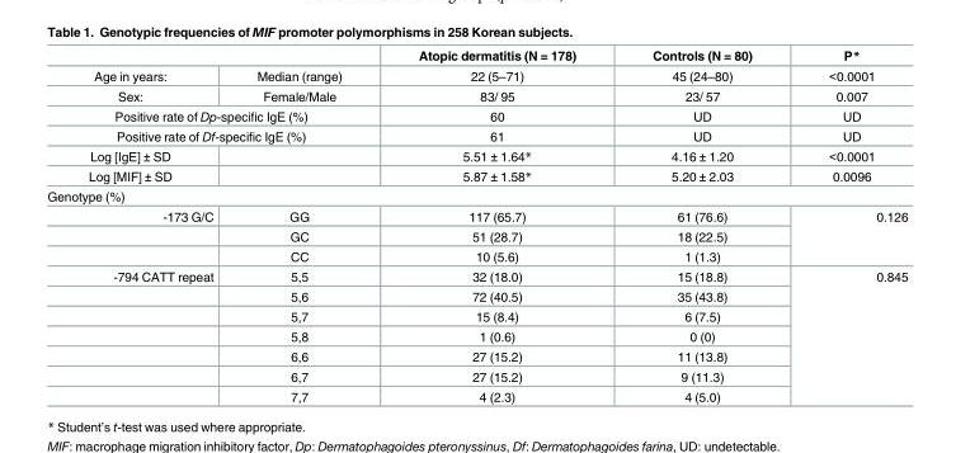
<table><thead><tr><td></td><td></td><td>Atopic dermatitis (N = 178)</td><td>Controls (N = 80)</td><td>P*</td></tr></thead><tbody><tr><td>Age in years:</td><td>Median (range)</td><td>22 (5–71)</td><td>45 (24–80)</td><td>&lt;0.0001</td></tr><tr><td>Sex:</td><td>Female/Male</td><td>83/ 95</td><td>23/ 57</td><td>0.007</td></tr><tr><td colspan="2">Positive rate of Dp-specific IgE (%)</td><td>60</td><td>UD</td><td>UD</td></tr><tr><td colspan="2">Positive rate of Df-specific IgE (%)</td><td>61</td><td>UD</td><td>UD</td></tr><tr><td>Log [IgE] ± SD</td><td></td><td>5.51 ± 1.64*</td><td>4.16 ± 1.20</td><td>&lt;0.0001</td></tr><tr><td>Log [MIF] ± SD</td><td></td><td>5.87 ± 1.58*</td><td>5.20 ± 2.03</td><td>0.0096</td></tr><tr><td colspan="5">Genotype (%)</td></tr><tr><td rowspan="3">-173 G/C</td><td>GG</td><td>117 (65.7)</td><td>61 (76.6)</td><td rowspan="3">0.126</td></tr><tr><td>GC</td><td>51 (28.7)</td><td>18 (22.5)</td></tr><tr><td>CC</td><td>10 (5.6)</td><td>1 (1.3)</td></tr><tr><td rowspan="7">-794 CATT repeat</td><td>5,5</td><td>32 (18.0)</td><td>15 (18.8)</td><td rowspan="7">0.845</td></tr><tr><td>5,6</td><td>72 (40.5)</td><td>35 (43.8)</td></tr><tr><td>5,7</td><td>15 (8.4)</td><td>6 (7.5)</td></tr><tr><td>5,8</td><td>1 (0.6)</td><td>0 (0)</td></tr><tr><td>6,6</td><td>27 (15.2)</td><td>11 (13.8)</td></tr><tr><td>6,7</td><td>27 (15.2)</td><td>9 (11.3)</td></tr><tr><td>7,7</td><td>4 (2.3)</td><td>4 (5.0)</td></tr></tbody></table>